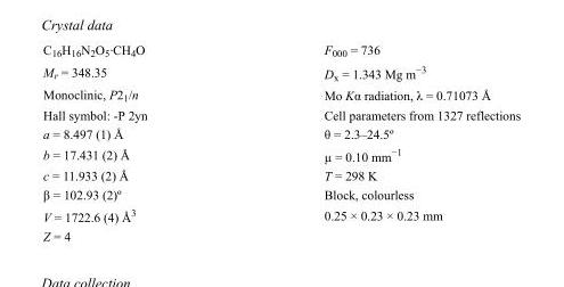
<table><tbody><tr><td>C<sub>16</sub>H<sub>16</sub>N<sub>2</sub>O<sub>5</sub>·CH<sub>4</sub>O</td><td>F000 = 736</td></tr><tr><td>M<sub>r</sub> = 348.35</td><td>D<sub>x</sub> = 1.343 Mg m<sup>−3</sup></td></tr><tr><td>Monoclinic, P2<sub>1</sub>/n</td><td>Mo Kα radiation, λ = 0.71073 Å</td></tr><tr><td>Hall symbol: -P 2yn</td><td>Cell parameters from 1327 reflections</td></tr><tr><td>a = 8.497 (1) Å</td><td>θ = 2.3–24.5º</td></tr><tr><td>b = 17.431 (2) Å</td><td>µ = 0.10 mm<sup>−1</sup></td></tr><tr><td>c = 11.933 (2) Å</td><td>T = 298 K</td></tr><tr><td>β = 102.93 (2)º</td><td>Block, colourless</td></tr><tr><td>V = 1722.6 (4) Å<sup>3</sup></td><td>0.25 × 0.23 × 0.23 mm</td></tr><tr><td>Z = 4</td><td></td></tr></tbody></table>